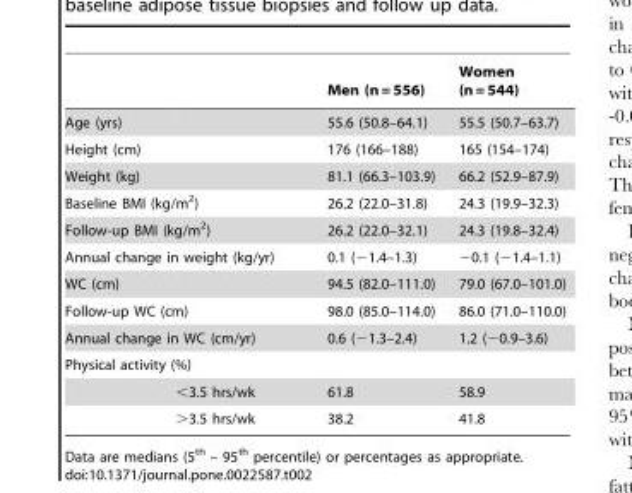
<table><thead><tr><td></td><td></td><td>Men (n = 556)</td><td>Women (n = 544)</td></tr></thead><tbody><tr><td>Age (yrs)</td><td></td><td>55.6 (50.8–64.1)</td><td>55.5 (50.7–63.7)</td></tr><tr><td colspan="2">Height (cm)</td><td>176 (166–188)</td><td>165 (154–174)</td></tr><tr><td colspan="2">Weight (kg)</td><td>81.1 (66.3–103.9)</td><td>66.2 (52.9–87.9)</td></tr><tr><td colspan="2">Baseline BMI (kg/m<sup>2</sup>)</td><td>26.2 (22.0–31.8)</td><td>24.3 (19.9–32.3)</td></tr><tr><td colspan="2">Follow-up BMI (kg/m<sup>2</sup>)</td><td>26.2 (22.0–32.1)</td><td>24.3 (19.8–32.4)</td></tr><tr><td colspan="2">Annual change in weight (kg/yr)</td><td>0.1 (−1.4–1.3)</td><td>−0.1 (−1.4–1.1)</td></tr><tr><td>WC (cm)</td><td></td><td>94.5 (82.0–111.0)</td><td>79.0 (67.0–101.0)</td></tr><tr><td colspan="2">Follow-up WC (cm)</td><td>98.0 (85.0–114.0)</td><td>86.0 (71.0–110.0)</td></tr><tr><td colspan="2">Annual change in WC (cm/yr)</td><td>0.6 (−1.3–2.4)</td><td>1.2 (−0.9–3.6)</td></tr><tr><td colspan="4">Physical activity (%)</td></tr><tr><td></td><td>&lt;3.5 hrs/wk</td><td>61.8</td><td>58.9</td></tr><tr><td></td><td>&gt;3.5 hrs/wk</td><td>38.2</td><td>41.8</td></tr></tbody></table>